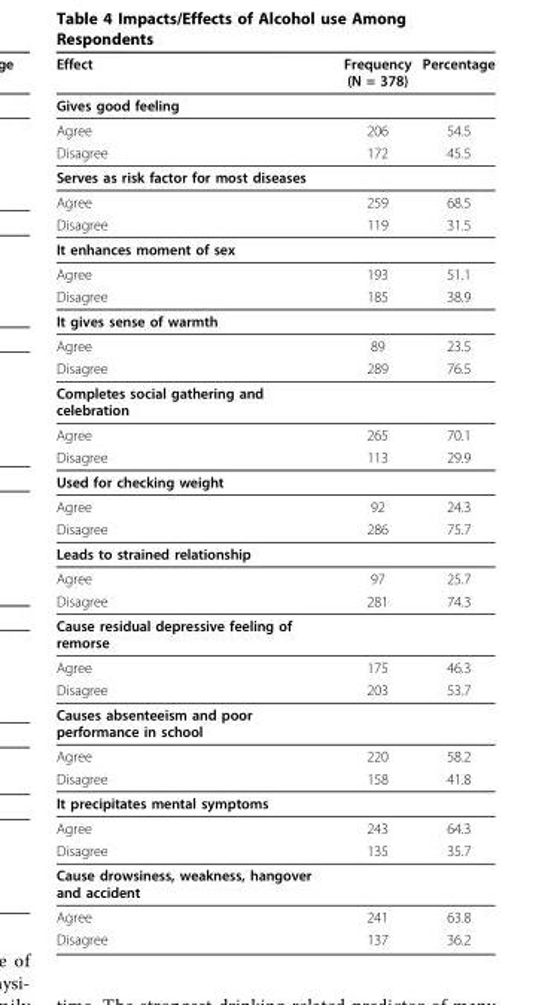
<table><thead><tr><td>Effect</td><td>Frequency (N = 378)</td><td>Percentage</td></tr></thead><tbody><tr><td colspan="3">Gives good feeling</td></tr><tr><td>Agree</td><td>206</td><td>54.5</td></tr><tr><td>Disagree</td><td>172</td><td>45.5</td></tr><tr><td colspan="3">Serves as risk factor for most diseases</td></tr><tr><td>Agree</td><td>259</td><td>68.5</td></tr><tr><td>Disagree</td><td>119</td><td>31.5</td></tr><tr><td colspan="3">It enhances moment of sex</td></tr><tr><td>Agree</td><td>193</td><td>51.1</td></tr><tr><td>Disagree</td><td>185</td><td>38.9</td></tr><tr><td colspan="3">It gives sense of warmth</td></tr><tr><td>Agree</td><td>89</td><td>23.5</td></tr><tr><td>Disagree</td><td>289</td><td>76.5</td></tr><tr><td colspan="3">Completes social gathering and celebration</td></tr><tr><td>Agree</td><td>265</td><td>70.1</td></tr><tr><td>Disagree</td><td>113</td><td>29.9</td></tr><tr><td colspan="3">Used for checking weight</td></tr><tr><td>Agree</td><td>92</td><td>24.3</td></tr><tr><td>Disagree</td><td>286</td><td>75.7</td></tr><tr><td colspan="3">Leads to strained relationship</td></tr><tr><td>Agree</td><td>97</td><td>25.7</td></tr><tr><td>Disagree</td><td>281</td><td>74.3</td></tr><tr><td colspan="3">Cause residual depressive feeling of remorse</td></tr><tr><td>Agree</td><td>175</td><td>46.3</td></tr><tr><td>Disagree</td><td>203</td><td>53.7</td></tr><tr><td colspan="3">Causes absenteeism and poor performance in school</td></tr><tr><td>Agree</td><td>220</td><td>58.2</td></tr><tr><td>Disagree</td><td>158</td><td>41.8</td></tr><tr><td colspan="3">It precipitates mental symptoms</td></tr><tr><td>Agree</td><td>243</td><td>64.3</td></tr><tr><td>Disagree</td><td>135</td><td>35.7</td></tr><tr><td colspan="3">Cause drowsiness, weakness, hangover and accident</td></tr><tr><td>Agree</td><td>241</td><td>63.8</td></tr><tr><td>Disagree</td><td>137</td><td>36.2</td></tr></tbody></table>